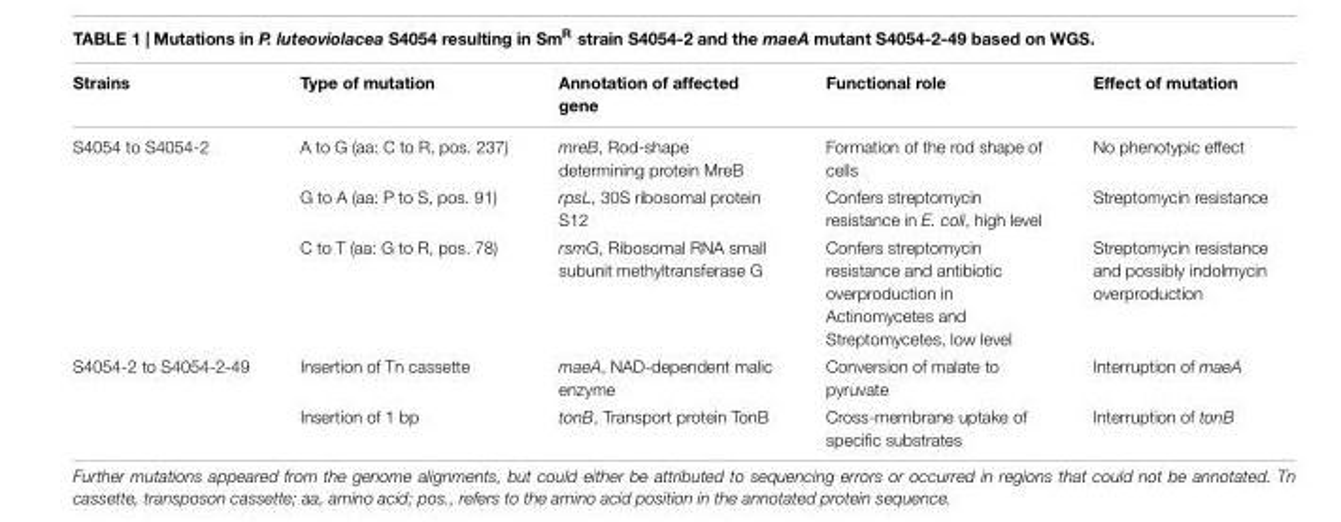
<table><thead><tr><td>Strains</td><td>Type of mutation</td><td>Annotation of affected gene</td><td>Functional role</td><td>Effect of mutation</td></tr></thead><tbody><tr><td rowspan="3">S4054 to S4054-2</td><td>A to G (aa: C to R, pos. 237)</td><td>mreB, Rod-shape determining protein MreB</td><td>Formation of the rod shape of cells</td><td>No phenotypic effect</td></tr><tr><td>G to A (aa: P to S, pos. 91)</td><td>rpsL, 30S ribosomal protein S12</td><td>Confers streptomycin resistance in E. coli, high level</td><td>Streptomycin resistance</td></tr><tr><td>C to T (aa: G to R, pos. 78)</td><td>rsmG, Ribosomal RNA small subunit methyltransferase G</td><td>Confers streptomycin resistance and antibiotic overproduction in Actinomycetes and Streptomycetes, low level</td><td>Streptomycin resistance and possibly indolmycin overproduction</td></tr><tr><td rowspan="2">S4054-2 to S4054-2-49</td><td>Insertion of Tn cassette</td><td>maeA, NAD-dependent malic enzyme</td><td>Conversion of malate to pyruvate</td><td>Interruption of maeA</td></tr><tr><td>Insertion of 1 bp</td><td>tonB, Transport protein TonB</td><td>Cross-membrane uptake of specific substrates</td><td>Interruption of tonB</td></tr></tbody></table>